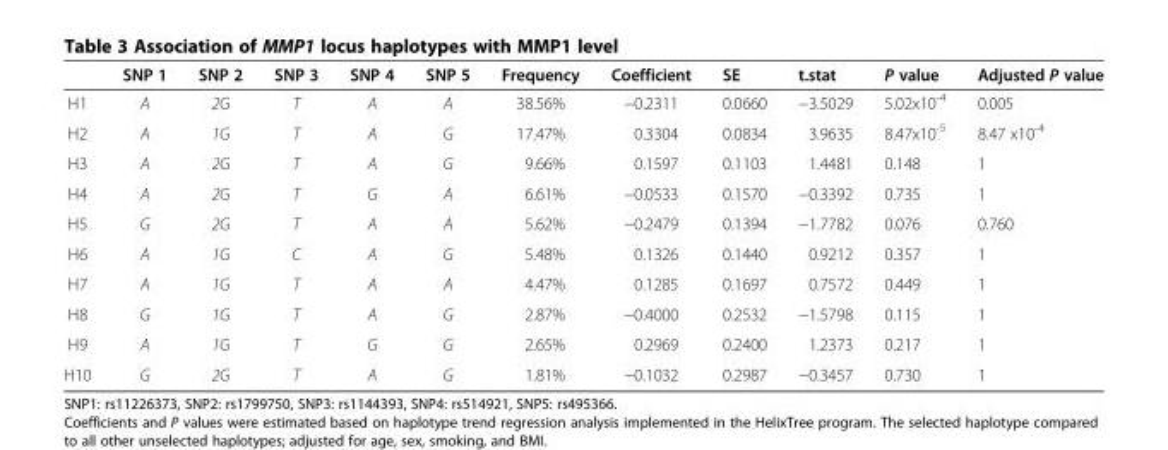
<table><thead><tr><td></td><td>SNP 1</td><td>SNP 2</td><td>SNP 3</td><td>SNP 4</td><td>SNP 5</td><td>Frequency</td><td>Coefficient</td><td>SE</td><td>t.stat</td><td>P value</td><td>Adjusted P value</td></tr></thead><tbody><tr><td>H1</td><td>A</td><td>2G</td><td>T</td><td>A</td><td>A</td><td>38.56%</td><td>−0.2311</td><td>0.0660</td><td>−3.5029</td><td>5.02x10<sup>-4</sup></td><td>0.005</td></tr><tr><td>H2</td><td>A</td><td>1G</td><td>T</td><td>A</td><td>G</td><td>17.47%</td><td>0.3304</td><td>0.0834</td><td>3.9635</td><td>8.47x10<sup>-5</sup></td><td>8.47 x10<sup>-4</sup></td></tr><tr><td>H3</td><td>A</td><td>2G</td><td>T</td><td>A</td><td>G</td><td>9.66%</td><td>0.1597</td><td>0.1103</td><td>1.4481</td><td>0.148</td><td>1</td></tr><tr><td>H4</td><td>A</td><td>2G</td><td>T</td><td>G</td><td>A</td><td>6.61%</td><td>−0.0533</td><td>0.1570</td><td>−0.3392</td><td>0.735</td><td>1</td></tr><tr><td>H5</td><td>G</td><td>2G</td><td>T</td><td>A</td><td>A</td><td>5.62%</td><td>−0.2479</td><td>0.1394</td><td>−1.7782</td><td>0.076</td><td>0.760</td></tr><tr><td>H6</td><td>A</td><td>1G</td><td>C</td><td>A</td><td>G</td><td>5.48%</td><td>0.1326</td><td>0.1440</td><td>0.9212</td><td>0.357</td><td>1</td></tr><tr><td>H7</td><td>A</td><td>1G</td><td>T</td><td>A</td><td>A</td><td>4.47%</td><td>0.1285</td><td>0.1697</td><td>0.7572</td><td>0.449</td><td>1</td></tr><tr><td>H8</td><td>G</td><td>1G</td><td>T</td><td>A</td><td>G</td><td>2.87%</td><td>−0.4000</td><td>0.2532</td><td>−1.5798</td><td>0.115</td><td>1</td></tr><tr><td>H9</td><td>A</td><td>1G</td><td>T</td><td>G</td><td>G</td><td>2.65%</td><td>0.2969</td><td>0.2400</td><td>1.2373</td><td>0.217</td><td>1</td></tr><tr><td>H10</td><td>G</td><td>2G</td><td>T</td><td>A</td><td>G</td><td>1.81%</td><td>−0.1032</td><td>0.2987</td><td>−0.3457</td><td>0.730</td><td>1</td></tr></tbody></table>